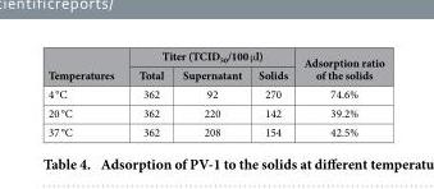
<table><thead><tr><td rowspan="2">Temperatures</td><td colspan="3">Titer (TCID<sub>50</sub>/100 μ l)</td><td rowspan="2">Adsorption ratio of the solids</td></tr><tr><td>Total</td><td>Supernatant</td><td>Solids</td></tr></thead><tbody><tr><td>4 °C</td><td>362</td><td>92</td><td>270</td><td>74.6%</td></tr><tr><td>20 °C</td><td>362</td><td>220</td><td>142</td><td>39.2%</td></tr><tr><td>37 °C</td><td>362</td><td>208</td><td>154</td><td>42.5%</td></tr></tbody></table>